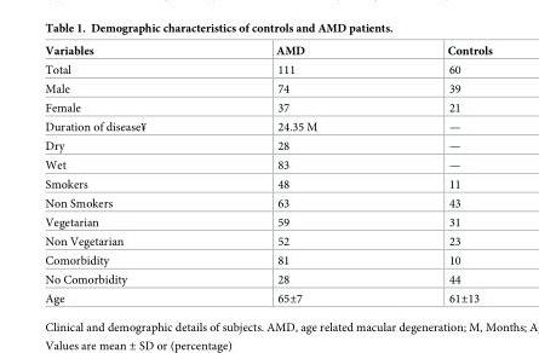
<table><thead><tr><td>Variables</td><td>AMD</td><td>Controls</td></tr></thead><tbody><tr><td>Total</td><td>111</td><td>60</td></tr><tr><td>Male</td><td>74</td><td>39</td></tr><tr><td>Female</td><td>37</td><td>21</td></tr><tr><td>Duration of disease¥</td><td>24.35 M</td><td>—</td></tr><tr><td>Dry</td><td>28</td><td>—</td></tr><tr><td>Wet</td><td>83</td><td>—</td></tr><tr><td>Smokers</td><td>48</td><td>11</td></tr><tr><td>Non Smokers</td><td>63</td><td>43</td></tr><tr><td>Vegetarian</td><td>59</td><td>31</td></tr><tr><td>Non Vegetarian</td><td>52</td><td>23</td></tr><tr><td>Comorbidity</td><td>81</td><td>10</td></tr><tr><td>No Comorbidity</td><td>28</td><td>44</td></tr><tr><td>Age</td><td>65±7</td><td>61±13</td></tr></tbody></table>